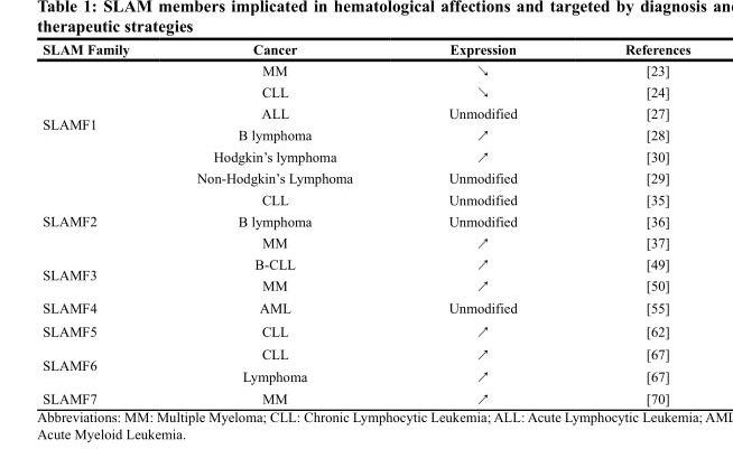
<table><thead><tr><td>SLAM Family</td><td>Cancer</td><td>Expression</td><td>References</td></tr></thead><tbody><tr><td rowspan="6">SLAMF1</td><td>MM</td><td>↘</td><td>[23]</td></tr><tr><td>CLL</td><td>↘</td><td>[24]</td></tr><tr><td>ALL</td><td>Unmodified</td><td>[27]</td></tr><tr><td>B lymphoma</td><td>↗</td><td>[28]</td></tr><tr><td>Hodgkin’s lymphoma</td><td>↗</td><td>[30]</td></tr><tr><td>Non-Hodgkin’s Lymphoma</td><td>Unmodified</td><td>[29]</td></tr><tr><td rowspan="3">SLAMF2</td><td>CLL</td><td>Unmodified</td><td>[35]</td></tr><tr><td>B lymphoma</td><td>Unmodified</td><td>[36]</td></tr><tr><td>MM</td><td>↗</td><td>[37]</td></tr><tr><td rowspan="2">SLAMF3</td><td>B-CLL</td><td>↗</td><td>[49]</td></tr><tr><td>MM</td><td>↗</td><td>[50]</td></tr><tr><td>SLAMF4</td><td>AML</td><td>Unmodified</td><td>[55]</td></tr><tr><td>SLAMF5</td><td>CLL</td><td>↗</td><td>[62]</td></tr><tr><td rowspan="2">SLAMF6</td><td>CLL</td><td>↗</td><td>[67]</td></tr><tr><td>Lymphoma</td><td>↗</td><td>[67]</td></tr><tr><td>SLAMF7</td><td>MM</td><td>↗</td><td>[70]</td></tr></tbody></table>